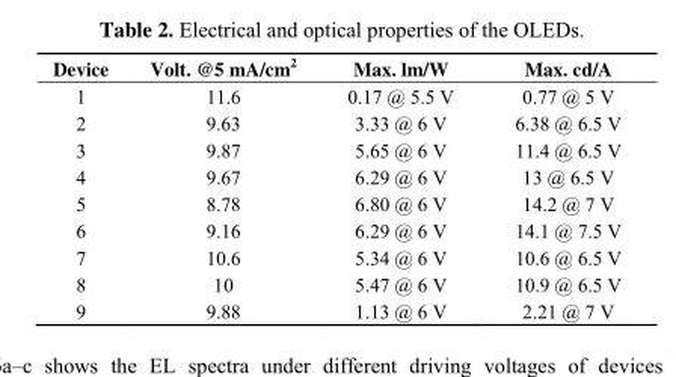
<table><thead><tr><td>Device</td><td>Volt. @5 mA/cm<sup>2</sup></td><td>Max. lm/W</td><td>Max. cd/A</td></tr></thead><tbody><tr><td>1</td><td>11.6</td><td>0.17 @ 5.5 V</td><td>0.77 @ 5 V</td></tr><tr><td>2</td><td>9.63</td><td>3.33 @ 6 V</td><td>6.38 @ 6.5 V</td></tr><tr><td>3</td><td>9.87</td><td>5.65 @ 6 V</td><td>11.4 @ 6.5 V</td></tr><tr><td>4</td><td>9.67</td><td>6.29 @ 6 V</td><td>13 @ 6.5 V</td></tr><tr><td>5</td><td>8.78</td><td>6.80 @ 6 V</td><td>14.2 @ 7 V</td></tr><tr><td>6</td><td>9.16</td><td>6.29 @ 6 V</td><td>14.1 @ 7.5 V</td></tr><tr><td>7</td><td>10.6</td><td>5.34 @ 6 V</td><td>10.6 @ 6.5 V</td></tr><tr><td>8</td><td>10</td><td>5.47 @ 6 V</td><td>10.9 @ 6.5 V</td></tr><tr><td>9</td><td>9.88</td><td>1.13 @ 6 V</td><td>2.21 @ 7 V</td></tr></tbody></table>